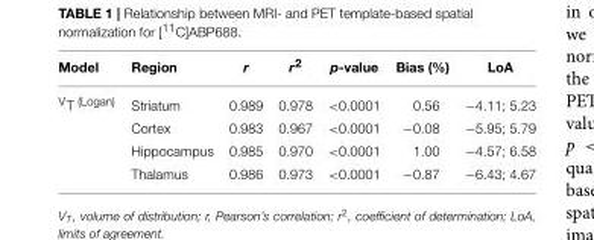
<table><thead><tr><td>Model</td><td>Region</td><td>r</td><td>r<sup>2</sup></td><td>p-value</td><td>Bias (%)</td><td>LoA</td></tr></thead><tbody><tr><td rowspan="4"><sup>V</sup>T <sup>(Logan)</sup></td><td>Striatum</td><td>0.989</td><td>0.978</td><td>&lt;0.0001</td><td>0.56</td><td>−4.11; 5.23</td></tr><tr><td>Cortex</td><td>0.983</td><td>0.967</td><td>&lt;0.0001</td><td>−0.08</td><td>−5.95; 5.79</td></tr><tr><td>Hippocampus</td><td>0.985</td><td>0.970</td><td>&lt;0.0001</td><td>1.00</td><td>−4.57; 6.58</td></tr><tr><td>Thalamus</td><td>0.986</td><td>0.973</td><td>&lt;0.0001</td><td>−0.87</td><td>−6.43; 4.67</td></tr></tbody></table>